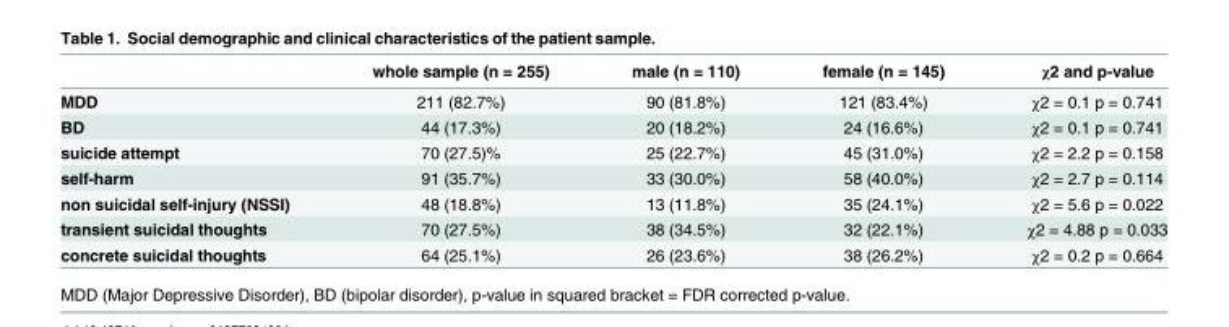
<table><thead><tr><td></td><td>whole sample (n = 255)</td><td>male (n = 110)</td><td>female (n = 145)</td><td>χ2 and p-value</td></tr></thead><tbody><tr><td>MDD</td><td>211 (82.7%)</td><td>90 (81.8%)</td><td>121 (83.4%)</td><td>χ2 = 0.1 p = 0.741</td></tr><tr><td>BD</td><td>44 (17.3%)</td><td>20 (18.2%)</td><td>24 (16.6%)</td><td>χ2 = 0.1 p = 0.741</td></tr><tr><td>suicide attempt</td><td>70 (27.5)%</td><td>25 (22.7%)</td><td>45 (31.0%)</td><td>χ2 = 2.2 p = 0.158</td></tr><tr><td>self-harm</td><td>91 (35.7%)</td><td>33 (30.0%)</td><td>58 (40.0%)</td><td>χ2 = 2.7 p = 0.114</td></tr><tr><td>non suicidal self-injury (NSSI)</td><td>48 (18.8%)</td><td>13 (11.8%)</td><td>35 (24.1%)</td><td>χ2 = 5.6 p = 0.022</td></tr><tr><td>transient suicidal thoughts</td><td>70 (27.5%)</td><td>38 (34.5%)</td><td>32 (22.1%)</td><td>χ2 = 4.88 p = 0.033</td></tr><tr><td>concrete suicidal thoughts</td><td>64 (25.1%)</td><td>26 (23.6%)</td><td>38 (26.2%)</td><td>χ2 = 0.2 p = 0.664</td></tr></tbody></table>